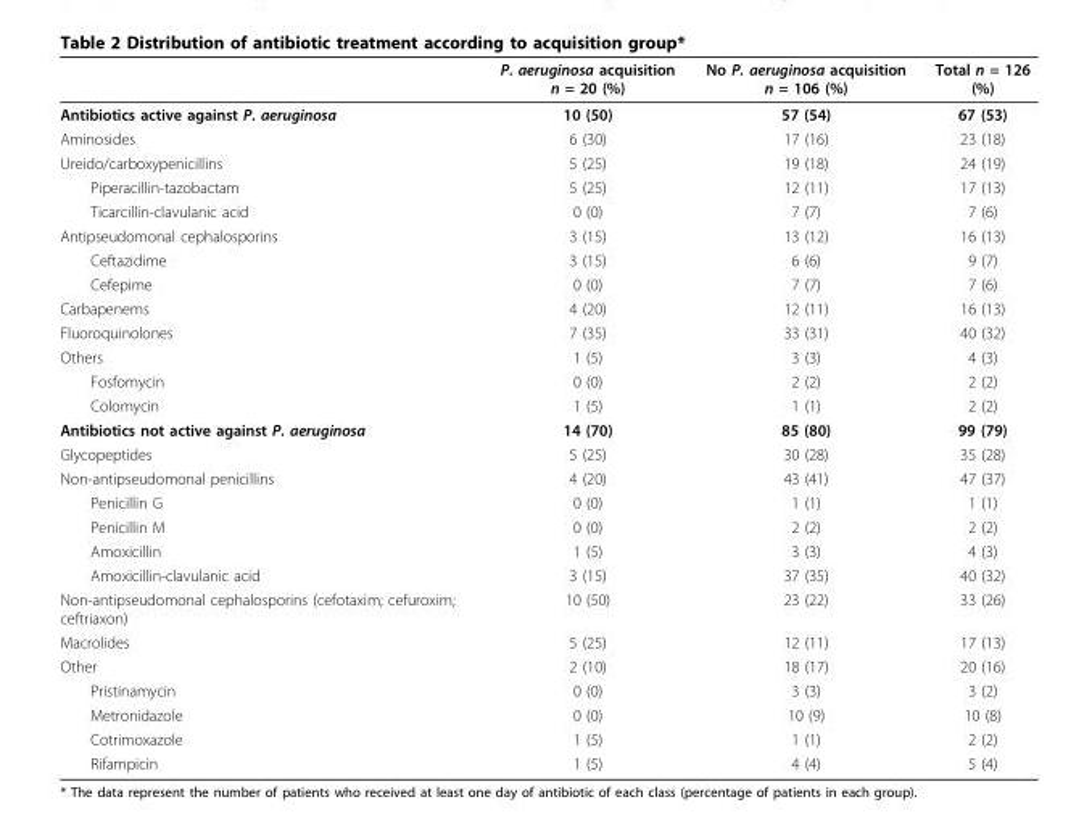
<table><thead><tr><td></td><td>P. aeruginosa acquisition n = 20 (%)</td><td>No P. aeruginosa acquisition n = 106 (%)</td><td>Total n = 126 (%)</td></tr></thead><tbody><tr><td>Antibiotics active against P. aeruginosa</td><td>10 (50)</td><td>57 (54)</td><td>67 (53)</td></tr><tr><td>Aminosides</td><td>6 (30)</td><td>17 (16)</td><td>23 (18)</td></tr><tr><td>Ureido/carboxypenicillins</td><td>5 (25)</td><td>19 (18)</td><td>24 (19)</td></tr><tr><td>Piperacillin-tazobactam</td><td>5 (25)</td><td>12 (11)</td><td>17 (13)</td></tr><tr><td>Ticarcillin-clavulanic acid</td><td>0 (0)</td><td>7 (7)</td><td>7 (6)</td></tr><tr><td>Antipseudomonal cephalosporins</td><td>3 (15)</td><td>13 (12)</td><td>16 (13)</td></tr><tr><td>Ceftazidime</td><td>3 (15)</td><td>6 (6)</td><td>9 (7)</td></tr><tr><td>Cefepime</td><td>0 (0)</td><td>7 (7)</td><td>7 (6)</td></tr><tr><td>Carbapenems</td><td>4 (20)</td><td>12 (11)</td><td>16 (13)</td></tr><tr><td>Fluoroquinolones</td><td>7 (35)</td><td>33 (31)</td><td>40 (32)</td></tr><tr><td>Others</td><td>1 (5)</td><td>3 (3)</td><td>4 (3)</td></tr><tr><td>Fosfomycin</td><td>0 (0)</td><td>2 (2)</td><td>2 (2)</td></tr><tr><td>Colomycin</td><td>1 (5)</td><td>1 (1)</td><td>2 (2)</td></tr><tr><td>Antibiotics not active against P. aeruginosa</td><td>14 (70)</td><td>85 (80)</td><td>99 (79)</td></tr><tr><td>Glycopeptides</td><td>5 (25)</td><td>30 (28)</td><td>35 (28)</td></tr><tr><td>Non-antipseudomonal penicillins</td><td>4 (20)</td><td>43 (41)</td><td>47 (37)</td></tr><tr><td>Penicillin G</td><td>0 (0)</td><td>1 (1)</td><td>1 (1)</td></tr><tr><td>Penicillin M</td><td>0 (0)</td><td>2 (2)</td><td>2 (2)</td></tr><tr><td>Amoxicillin</td><td>1 (5)</td><td>3 (3)</td><td>4 (3)</td></tr><tr><td>Amoxicillin-clavulanic acid</td><td>3 (15)</td><td>37 (35)</td><td>40 (32)</td></tr><tr><td>Non-antipseudomonal cephalosporins (cefotaxim; cefuroxim; ceftriaxon)</td><td>10 (50)</td><td>23 (22)</td><td>33 (26)</td></tr><tr><td>Macrolides</td><td>5 (25)</td><td>12 (11)</td><td>17 (13)</td></tr><tr><td>Other</td><td>2 (10)</td><td>18 (17)</td><td>20 (16)</td></tr><tr><td>Pristinamycin</td><td>0 (0)</td><td>3 (3)</td><td>3 (2)</td></tr><tr><td>Metronidazole</td><td>0 (0)</td><td>10 (9)</td><td>10 (8)</td></tr><tr><td>Cotrimoxazole</td><td>1 (5)</td><td>1 (1)</td><td>2 (2)</td></tr><tr><td>Rifampicin</td><td>1 (5)</td><td>4 (4)</td><td>5 (4)</td></tr></tbody></table>